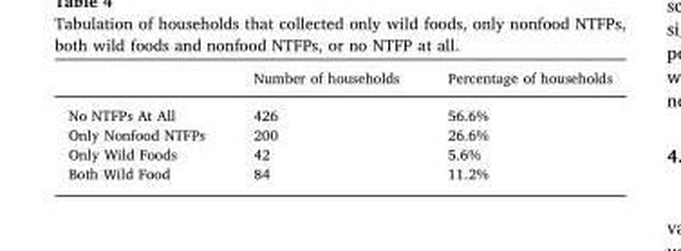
<table><thead><tr><td></td><td>Number of households</td><td>Percentage of households</td></tr></thead><tbody><tr><td>No NTFPs At All</td><td>426</td><td>56.6%</td></tr><tr><td>Only Nonfood NTFPs</td><td>200</td><td>26.6%</td></tr><tr><td>Only Wild Foods</td><td>42</td><td>5.6%</td></tr><tr><td>Both Wild Food</td><td>84</td><td>11.2%</td></tr></tbody></table>